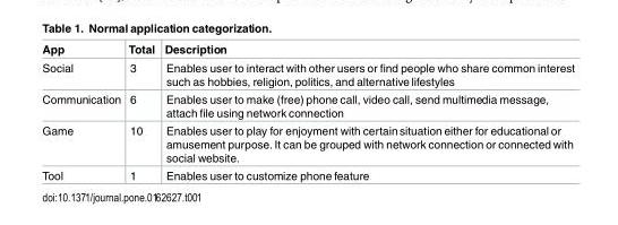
<table><thead><tr><td>App</td><td>Total</td><td>Description</td></tr></thead><tbody><tr><td>Social</td><td>3</td><td>Enables user to interact with other users or find people who share common interest such as hobbies, religion, politics, and alternative lifestyles</td></tr><tr><td>Communication</td><td>6</td><td>Enables user to make (free) phone call, video call, send multimedia message, attach file using network connection</td></tr><tr><td>Game</td><td>10</td><td>Enables user to play for enjoyment with certainsituation either for educational or amusement purpose. It can be grouped with network connection or connected with social website.</td></tr><tr><td>Tool</td><td>1</td><td>Enables user to customize phone feature</td></tr></tbody></table>